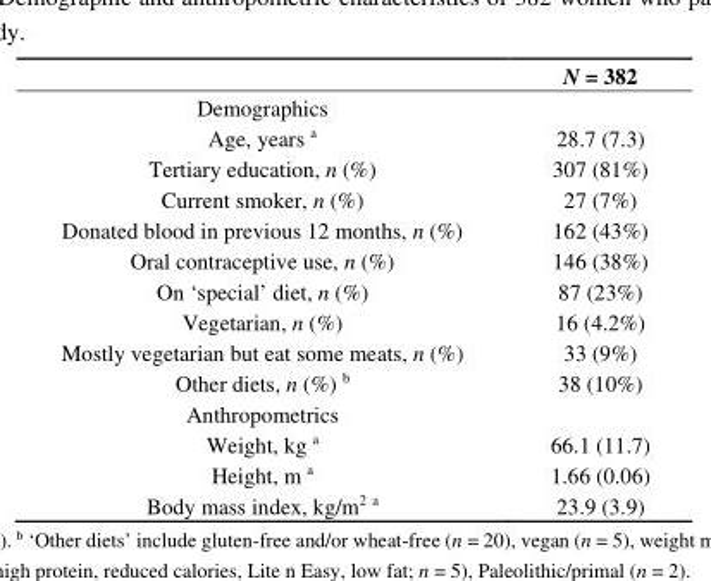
<table><thead><tr><td></td><td>N = 382</td></tr></thead><tbody><tr><td colspan="2">Demographics</td></tr><tr><td>Age, years <sup>a</sup></td><td>28.7 (7.3)</td></tr><tr><td>Tertiary education, n (%)</td><td>307 (81%)</td></tr><tr><td>Current smoker, n (%)</td><td>27 (7%)</td></tr><tr><td>Donated blood in previous 12 months, n (%)</td><td>162 (43%)</td></tr><tr><td>Oral contraceptive use, n (%)</td><td>146 (38%)</td></tr><tr><td>On ‘special’ diet, n (%)</td><td>87 (23%)</td></tr><tr><td>Vegetarian, n (%)</td><td>16 (4.2%)</td></tr><tr><td>Mostly vegetarian but eat some meats, n (%)</td><td>33 (9%)</td></tr><tr><td>Other diets, n (%) <sup>b</sup></td><td>38 (10%)</td></tr><tr><td colspan="2">Anthropometrics</td></tr><tr><td>Weight, kg <sup>a</sup></td><td>66.1 (11.7)</td></tr><tr><td>Height, m <sup>a</sup></td><td>1.66 (0.06)</td></tr><tr><td>Body mass index, kg/m<sup>2 a</sup></td><td>23.9 (3.9)</td></tr></tbody></table>